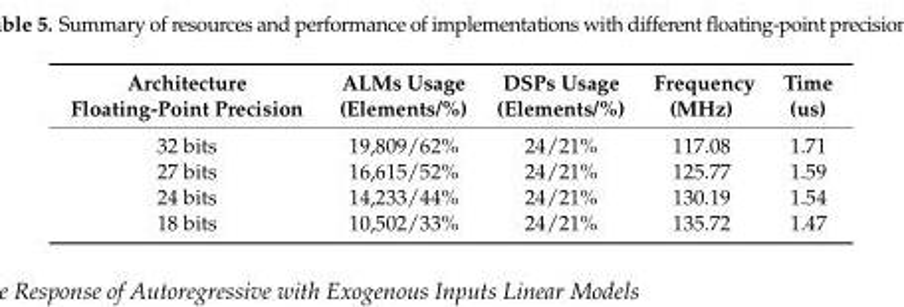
<table><thead><tr><td>Architecture Floating-Point Precision</td><td>ALMs Usage (Elements/%)</td><td>DSPs Usage (Elements/%)</td><td>Frequency (MHz)</td><td>Time (us)</td></tr></thead><tbody><tr><td>32 bits</td><td>19,809/62%</td><td>24/21%</td><td>117.08</td><td>1.71</td></tr><tr><td>27 bits</td><td>16,615/52%</td><td>24/21%</td><td>125.77</td><td>1.59</td></tr><tr><td>24 bits</td><td>14,233/44%</td><td>24/21%</td><td>130.19</td><td>1.54</td></tr><tr><td>18 bits</td><td>10,502/33%</td><td>24/21%</td><td>135.72</td><td>1.47</td></tr></tbody></table>